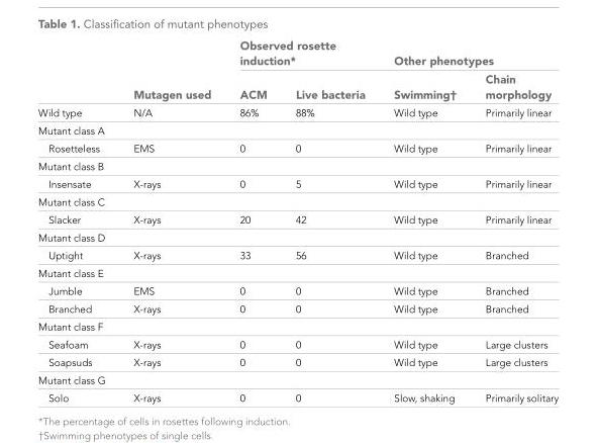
<table><thead><tr><td rowspan="2"></td><td rowspan="2">Mutagen used</td><td colspan="2">Observed rosette induction*</td><td colspan="2">Other phenotypes</td></tr><tr><td>ACM</td><td>Live bacteria</td><td>Swimming†</td><td>Chain morphology</td></tr></thead><tbody><tr><td>Wild type</td><td>N/A</td><td>86%</td><td>88%</td><td>Wild type</td><td>Primarily linear</td></tr><tr><td colspan="6">Mutant class A</td></tr><tr><td>Rosetteless</td><td>EMS</td><td>0</td><td>0</td><td>Wild type</td><td>Primarily linear</td></tr><tr><td colspan="6">Mutant class B</td></tr><tr><td>Insensate</td><td>X-rays</td><td>0</td><td>5</td><td>Wild type</td><td>Primarily linear</td></tr><tr><td colspan="6">Mutant class C</td></tr><tr><td>Slacker</td><td>X-rays</td><td>20</td><td>42</td><td>Wild type</td><td>Primarily linear</td></tr><tr><td colspan="6">Mutant class D</td></tr><tr><td>Uptight</td><td>X-rays</td><td>33</td><td>56</td><td>Wild type</td><td>Branched</td></tr><tr><td colspan="6">Mutant class E</td></tr><tr><td>Jumble</td><td>EMS</td><td>0</td><td>0</td><td>Wild type</td><td>Branched</td></tr><tr><td>Branched</td><td>X-rays</td><td>0</td><td>0</td><td>Wild type</td><td>Branched</td></tr><tr><td colspan="6">Mutant class F</td></tr><tr><td>Seafoam</td><td>X-rays</td><td>0</td><td>0</td><td>Wild type</td><td>Large clusters</td></tr><tr><td>Soapsuds</td><td>X-rays</td><td>0</td><td>0</td><td>Wild type</td><td>Large clusters</td></tr><tr><td colspan="6">Mutant class G</td></tr><tr><td>Solo</td><td>X-rays</td><td>0</td><td>0</td><td>Slow, shaking</td><td>Primarily solitary</td></tr></tbody></table>